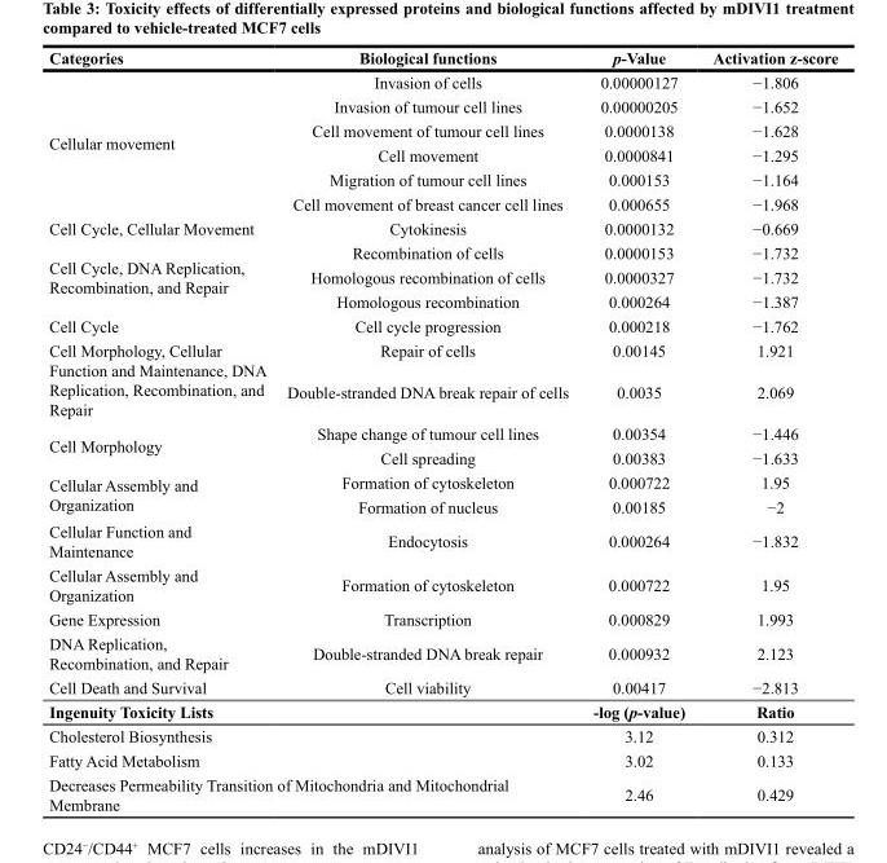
<table><thead><tr><td>Categories</td><td>Biological functions</td><td>p-Value</td><td>Activation z-score</td></tr></thead><tbody><tr><td rowspan="6">Cellular movement</td><td>Invasion of cells</td><td>0.00000127</td><td>−1.806</td></tr><tr><td>Invasion of tumour cell lines</td><td>0.00000205</td><td>−1.652</td></tr><tr><td>Cell movement of tumour cell lines</td><td>0.0000138</td><td>−1.628</td></tr><tr><td>Cell movement</td><td>0.0000841</td><td>−1.295</td></tr><tr><td>Migration of tumour cell lines</td><td>0.000153</td><td>−1.164</td></tr><tr><td>Cell movement of breast cancer cell lines</td><td>0.000655</td><td>−1.968</td></tr><tr><td>Cell Cycle, Cellular Movement</td><td>Cytokinesis</td><td>0.0000132</td><td>−0.669</td></tr><tr><td rowspan="3">Cell Cycle, DNA Replication, Recombination, and Repair</td><td>Recombination of cells</td><td>0.0000153</td><td>−1.732</td></tr><tr><td>Homologous recombination of cells</td><td>0.0000327</td><td>−1.732</td></tr><tr><td>Homologous recombination</td><td>0.000264</td><td>−1.387</td></tr><tr><td>Cell Cycle</td><td>Cell cycle progression</td><td>0.000218</td><td>−1.762</td></tr><tr><td rowspan="2">Cell Morphology, Cellular Function and Maintenance, DNA Replication, Recombination, and Repair</td><td>Repair of cells</td><td>0.00145</td><td>1.921</td></tr><tr><td>Double-stranded DNA break repair of cells</td><td>0.0035</td><td>2.069</td></tr><tr><td rowspan="2">Cell Morphology</td><td>Shape change of tumour cell lines</td><td>0.00354</td><td>−1.446</td></tr><tr><td>Cell spreading</td><td>0.00383</td><td>−1.633</td></tr><tr><td rowspan="2">Cellular Assembly and Organization</td><td>Formation of cytoskeleton</td><td>0.000722</td><td>1.95</td></tr><tr><td>Formation of nucleus</td><td>0.00185</td><td>−2</td></tr><tr><td>Cellular Function and Maintenance</td><td>Endocytosis</td><td>0.000264</td><td>−1.832</td></tr><tr><td>Cellular Assembly and Organization</td><td>Formation of cytoskeleton</td><td>0.000722</td><td>1.95</td></tr><tr><td>Gene Expression</td><td>Transcription</td><td>0.000829</td><td>1.993</td></tr><tr><td>DNA Replication, Recombination, and Repair</td><td>Double-stranded DNA break repair</td><td>0.000932</td><td>2.123</td></tr><tr><td>Cell Death and Survival</td><td>Cell viability</td><td>0.00417</td><td>−2.813</td></tr><tr><td colspan="2">Ingenuity Toxicity Lists</td><td>-log (p-value)</td><td>Ratio</td></tr><tr><td colspan="2">Cholesterol Biosynthesis</td><td>3.12</td><td>0.312</td></tr><tr><td colspan="2">Fatty Acid Metabolism</td><td>3.02</td><td>0.133</td></tr><tr><td colspan="2">Decreases Permeability Transition of Mitochondria and Mitochondrial Membrane</td><td>2.46</td><td>0.429</td></tr></tbody></table>